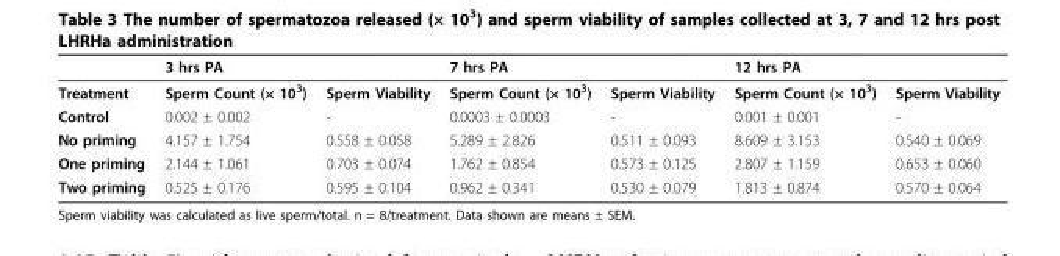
<table><thead><tr><td rowspan="2">Treatment</td><td colspan="2">3 hrs PA</td><td colspan="2">7 hrs PA</td><td colspan="2">12 hrs PA</td></tr><tr><td>Sperm Count (× 10<sup>3</sup>)</td><td>Sperm Viability</td><td>Sperm Count (× 10<sup>3</sup>)</td><td>Sperm Viability</td><td>Sperm Count (× 10<sup>3</sup>)</td><td>Sperm Viability</td></tr></thead><tbody><tr><td>Control</td><td>0.002 ± 0.002</td><td>-</td><td>0.0003 ± 0.0003</td><td>-</td><td>0.001 ± 0.001</td><td>-</td></tr><tr><td>No priming</td><td>4.157 ± 1.754</td><td>0.558 ± 0.058</td><td>5.289 ± 2.826</td><td>0.511 ± 0.093</td><td>8.609 ± 3.153</td><td>0.540 ± 0.069</td></tr><tr><td>One priming</td><td>2.144 ± 1.061</td><td>0.703 ± 0.074</td><td>1.762 ± 0.854</td><td>0.573 ± 0.125</td><td>2.807 ± 1.159</td><td>0.653 ± 0.060</td></tr><tr><td>Two priming</td><td>0.525 ± 0.176</td><td>0.595 ± 0.104</td><td>0.962 ± 0.341</td><td>0.530 ± 0.079</td><td>1.813 ± 0.874</td><td>0.570 ± 0.064</td></tr></tbody></table>